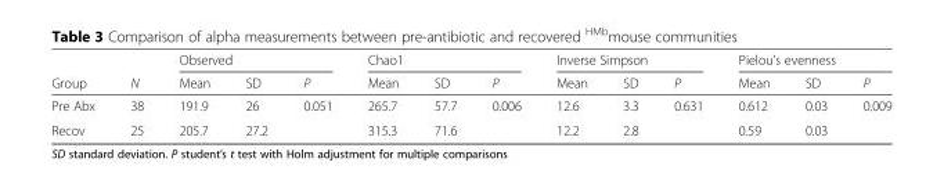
<table><thead><tr><td rowspan="2">Group</td><td rowspan="2">N</td><td colspan="3">Observed</td><td colspan="3">Chao1</td><td colspan="3">Inverse Simpson</td><td colspan="3">Pielou’s evenness</td></tr><tr><td>Mean</td><td>SD</td><td>P</td><td>Mean</td><td>SD</td><td>P</td><td>Mean</td><td>SD</td><td>P</td><td>Mean</td><td>SD</td><td>P</td></tr></thead><tbody><tr><td>Pre Abx</td><td>38</td><td>191.9</td><td>26</td><td rowspan="2">0.051</td><td>265.7</td><td>57.7</td><td rowspan="2">0.006</td><td>12.6</td><td>3.3</td><td rowspan="2">0.631</td><td>0.612</td><td>0.03</td><td rowspan="2">0.009</td></tr><tr><td>Recov</td><td>25</td><td>205.7</td><td>27.2</td><td>315.3</td><td>71.6</td><td>12.2</td><td>2.8</td><td>0.59</td><td>0.03</td></tr></tbody></table>